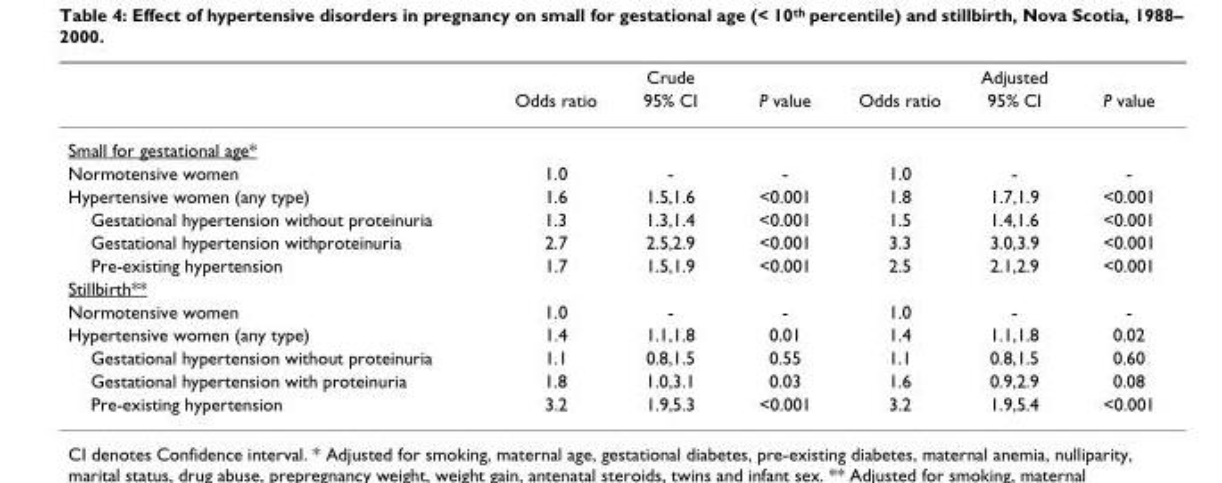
<table><thead><tr><td rowspan="2"></td><td colspan="3">Crude</td><td colspan="3">Adjusted</td></tr><tr><td>Odds ratio</td><td>95% CI</td><td>P value</td><td>Odds ratio</td><td>95% CI</td><td>P value</td></tr></thead><tbody><tr><td colspan="7">Small for gestational age*</td></tr><tr><td>Normotensive women</td><td>1.0</td><td>-</td><td>-</td><td>1.0</td><td>-</td><td>-</td></tr><tr><td>Hypertensive women (any type)</td><td>1.6</td><td>1.5,1.6</td><td>&lt;0.001</td><td>1.8</td><td>1.7,1.9</td><td>&lt;0.001</td></tr><tr><td>Gestational hypertension without proteinuria</td><td>1.3</td><td>1.3,1.4</td><td>&lt;0.001</td><td>1.5</td><td>1.4,1.6</td><td>&lt;0.001</td></tr><tr><td>Gestational hypertension withproteinuria</td><td>2.7</td><td>2.5,2.9</td><td>&lt;0.001</td><td>3.3</td><td>3.0,3.9</td><td>&lt;0.001</td></tr><tr><td>Pre-existing hypertension</td><td>1.7</td><td>1.5,1.9</td><td>&lt;0.001</td><td>2.5</td><td>2.1,2.9</td><td>&lt;0.001</td></tr><tr><td colspan="7">Stillbirth**</td></tr><tr><td>Normotensive women</td><td>1.0</td><td>-</td><td>-</td><td>1.0</td><td>-</td><td>-</td></tr><tr><td>Hypertensive women (any type)</td><td>1.4</td><td>1.1,1.8</td><td>0.01</td><td>1.4</td><td>1.1,1.8</td><td>0.02</td></tr><tr><td>Gestational hypertension without proteinuria</td><td>1.1</td><td>0.8,1.5</td><td>0.55</td><td>1.1</td><td>0.8,1.5</td><td>0.60</td></tr><tr><td>Gestational hypertension with proteinuria</td><td>1.8</td><td>1.0,3.1</td><td>0.03</td><td>1.6</td><td>0.9,2.9</td><td>0.08</td></tr><tr><td>Pre-existing hypertension</td><td>3.2</td><td>1.9,5.3</td><td>&lt;0.001</td><td>3.2</td><td>1.9,5.4</td><td>&lt;0.001</td></tr></tbody></table>